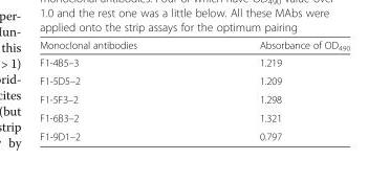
<table><thead><tr><td>Monoclonal antibodies</td><td>Absorbance of OD<sub>490</sub></td></tr></thead><tbody><tr><td>F1-4B5–3</td><td>1.219</td></tr><tr><td>F1-5D5–2</td><td>1.209</td></tr><tr><td>F1-5F3–2</td><td>1.298</td></tr><tr><td>F1-6B3–2</td><td>1.321</td></tr><tr><td>F1-9D1–2</td><td>0.797</td></tr></tbody></table>